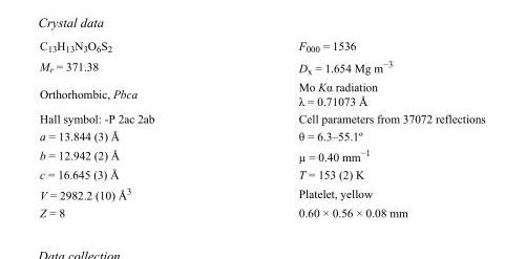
<table><tbody><tr><td>C<sub>13</sub>H<sub>13</sub>N<sub>3</sub>O<sub>6</sub>S<sub>2</sub></td><td>F000 = 1536</td></tr><tr><td>M<sub>r</sub> = 371.38</td><td>D<sub>x</sub> = 1.654 Mg m<sup>−3</sup></td></tr><tr><td>Orthorhombic, Pbca</td><td>Mo Kα radiation λ = 0.71073 Å</td></tr><tr><td>Hall symbol: -P 2ac 2ab</td><td>Cell parameters from 37072 reflections</td></tr><tr><td>a = 13.844 (3) Å</td><td>θ = 6.3–55.1º</td></tr><tr><td>b = 12.942 (2) Å</td><td>µ = 0.40 mm<sup>−1</sup></td></tr><tr><td>c = 16.645 (3) Å</td><td>T = 153 (2) K</td></tr><tr><td>V = 2982.2 (10) Å<sup>3</sup></td><td>Platelet, yellow</td></tr><tr><td>Z = 8</td><td>0.60 × 0.56 × 0.08 mm</td></tr></tbody></table>